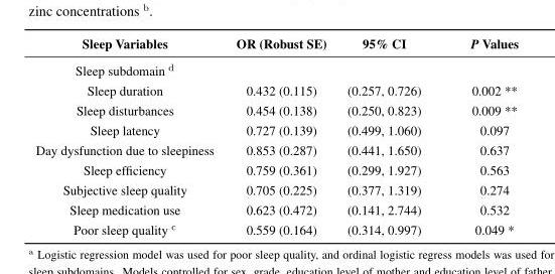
<table><thead><tr><td>Sleep Variables</td><td>OR (Robust SE)</td><td>95% CI</td><td>P Values</td></tr></thead><tbody><tr><td colspan="4">Sleep subdomain <sup>d</sup></td></tr><tr><td>Sleep duration</td><td>0.432 (0.115)</td><td>(0.257, 0.726)</td><td>0.002 **</td></tr><tr><td>Sleep disturbances</td><td>0.454 (0.138)</td><td>(0.250, 0.823)</td><td>0.009 **</td></tr><tr><td>Sleep latency</td><td>0.727 (0.139)</td><td>(0.499, 1.060)</td><td>0.097</td></tr><tr><td>Day dysfunction due to sleepiness</td><td>0.853 (0.287)</td><td>(0.441, 1.650)</td><td>0.637</td></tr><tr><td>Sleep efficiency</td><td>0.759 (0.361)</td><td>(0.299, 1.927)</td><td>0.563</td></tr><tr><td>Subjective sleep quality</td><td>0.705 (0.225)</td><td>(0.377, 1.319)</td><td>0.274</td></tr><tr><td>Sleep medication use</td><td>0.623 (0.472)</td><td>(0.141, 2.744)</td><td>0.532</td></tr><tr><td>Poor sleep quality <sup>c</sup></td><td>0.559 (0.164)</td><td>(0.314, 0.997)</td><td>0.049 *</td></tr></tbody></table>